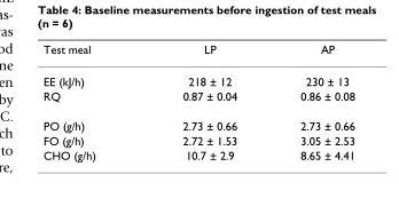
<table><thead><tr><td>Test meal</td><td>LP</td><td>AP</td></tr></thead><tbody><tr><td>EE (kJ/h)</td><td>218 ± 12</td><td>230 ± 13</td></tr><tr><td>RQ</td><td>0.87 ± 0.04</td><td>0.86 ± 0.08</td></tr><tr><td>PO (g/h)</td><td>2.73 ± 0.66</td><td>2.73 ± 0.66</td></tr><tr><td>FO (g/h)</td><td>2.72 ± 1.53</td><td>3.05 ± 2.53</td></tr><tr><td>CHO (g/h)</td><td>10.7 ± 2.9</td><td>8.65 ± 4.41</td></tr></tbody></table>